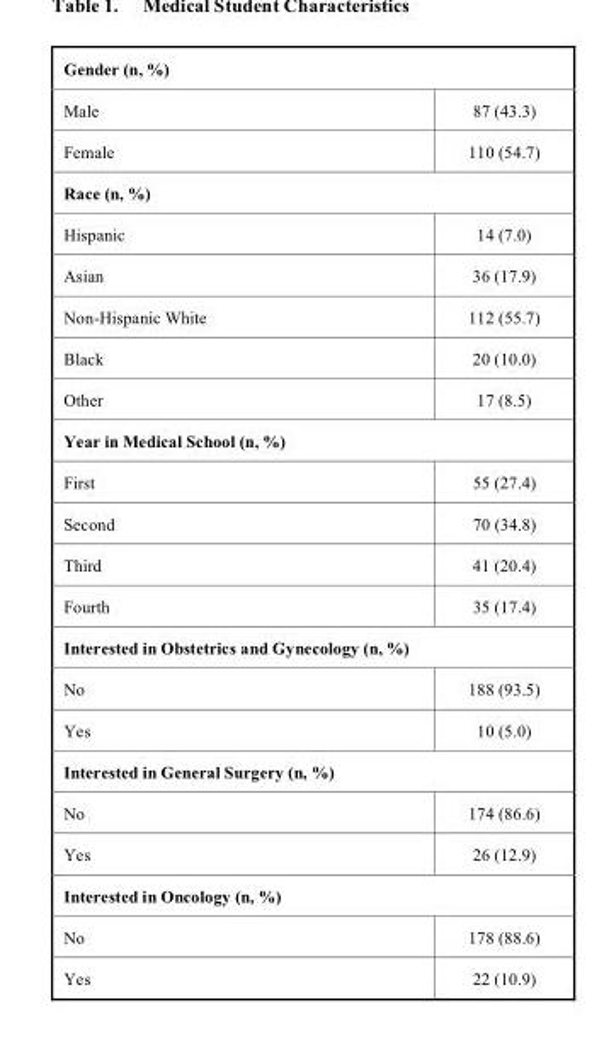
<table><tbody><tr><td colspan="2">Gender (n, %)</td></tr><tr><td>Male</td><td>87 (43.3)</td></tr><tr><td>Female</td><td>110 (54.7)</td></tr><tr><td colspan="2">Race (n, %)</td></tr><tr><td>Hispanic</td><td>14 (7.0)</td></tr><tr><td>Asian</td><td>36 (17.9)</td></tr><tr><td>Non-Hispanic White</td><td>112 (55.7)</td></tr><tr><td>Black</td><td>20 (10.0)</td></tr><tr><td>Other</td><td>17 (8.5)</td></tr><tr><td colspan="2">Year in Medical School (n, %)</td></tr><tr><td>First</td><td>55 (27.4)</td></tr><tr><td>Second</td><td>70 (34.8)</td></tr><tr><td>Third</td><td>41 (20.4)</td></tr><tr><td>Fourth</td><td>35 (17.4)</td></tr><tr><td colspan="2">Interested in Obstetrics and Gynecology (n, %)</td></tr><tr><td>No</td><td>188 (93.5)</td></tr><tr><td>Yes</td><td>10 (5.0)</td></tr><tr><td colspan="2">Interested in General Surgery (n, %)</td></tr><tr><td>No</td><td>174 (86.6)</td></tr><tr><td>Yes</td><td>26 (12.9)</td></tr><tr><td colspan="2">Interested in Oncology (n, %)</td></tr><tr><td>No</td><td>178 (88.6)</td></tr><tr><td>Yes</td><td>22 (10.9)</td></tr></tbody></table>